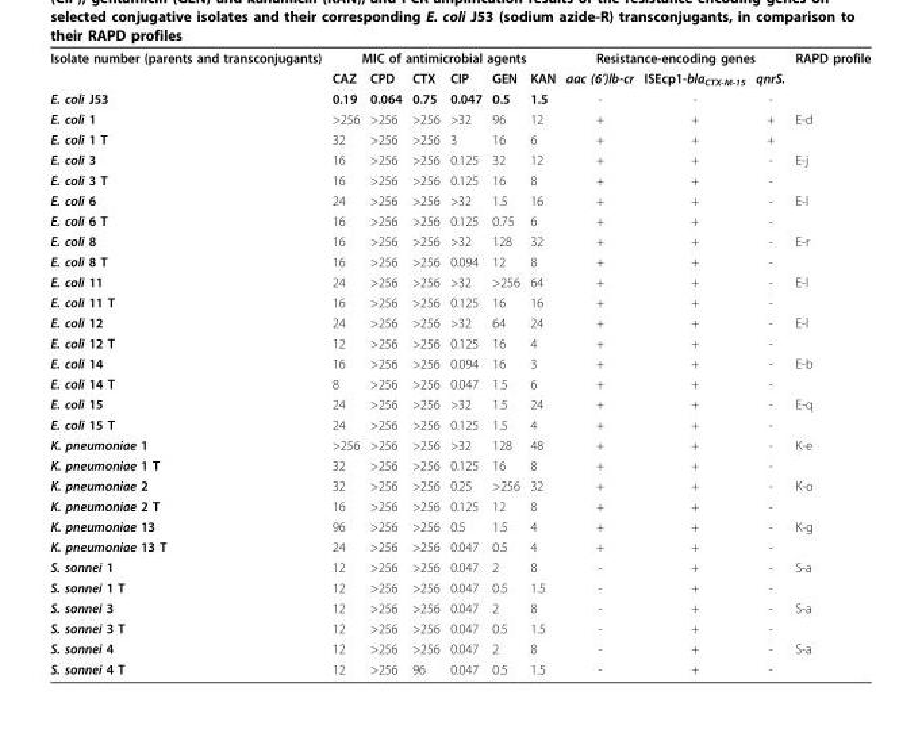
<table><tbody><tr><td rowspan="2">Isolate number (parents and transconjugants)</td><td colspan="6">MIC of antimicrobial agents</td><td colspan="3">Resistance-encoding genes</td><td>RAPD profile</td></tr><tr><td>CAZ</td><td>CPD</td><td>CTX</td><td>CIP</td><td>GEN</td><td>KAN</td><td>aac (6’)lb-cr</td><td>ISEcp1-bla<sub>CTX-M-15</sub></td><td>qnrS.</td><td></td></tr><tr><td>E. coli J53</td><td>0.19</td><td>0.064</td><td>0.75</td><td>0.047</td><td>0.5</td><td>1.5</td><td>-</td><td>-</td><td>-</td><td></td></tr><tr><td>E. coli 1</td><td>&gt;256</td><td>&gt;256</td><td>&gt;256</td><td>&gt;32</td><td>96</td><td>12</td><td>+</td><td>+</td><td>+</td><td>E-d</td></tr><tr><td>E. coli 1 T</td><td>32</td><td>&gt;256</td><td>&gt;256</td><td>3</td><td>16</td><td>6</td><td>+</td><td>+</td><td>+</td><td></td></tr><tr><td>E. coli 3</td><td>16</td><td>&gt;256</td><td>&gt;256</td><td>0.125</td><td>32</td><td>12</td><td>+</td><td>+</td><td>-</td><td>E-j</td></tr><tr><td>E. coli 3 T</td><td>16</td><td>&gt;256</td><td>&gt;256</td><td>0.125</td><td>16</td><td>8</td><td>+</td><td>+</td><td>-</td><td></td></tr><tr><td>E. coli 6</td><td>24</td><td>&gt;256</td><td>&gt;256</td><td>&gt;32</td><td>1.5</td><td>16</td><td>+</td><td>+</td><td>-</td><td>E-l</td></tr><tr><td>E. coli 6 T</td><td>16</td><td>&gt;256</td><td>&gt;256</td><td>0.125</td><td>0.75</td><td>6</td><td>+</td><td>+</td><td>-</td><td></td></tr><tr><td>E. coli 8</td><td>16</td><td>&gt;256</td><td>&gt;256</td><td>&gt;32</td><td>128</td><td>32</td><td>+</td><td>+</td><td>-</td><td>E-r</td></tr><tr><td>E. coli 8 T</td><td>16</td><td>&gt;256</td><td>&gt;256</td><td>0.094</td><td>12</td><td>8</td><td>+</td><td>+</td><td>-</td><td></td></tr><tr><td>E. coli 11</td><td>24</td><td>&gt;256</td><td>&gt;256</td><td>&gt;32</td><td>&gt;256</td><td>64</td><td>+</td><td>+</td><td>-</td><td>E-l</td></tr><tr><td>E. coli 11 T</td><td>16</td><td>&gt;256</td><td>&gt;256</td><td>0.125</td><td>16</td><td>16</td><td>+</td><td>+</td><td>-</td><td></td></tr><tr><td>E. coli 12</td><td>24</td><td>&gt;256</td><td>&gt;256</td><td>&gt;32</td><td>64</td><td>24</td><td>+</td><td>+</td><td>-</td><td>E-l</td></tr><tr><td>E. coli 12 T</td><td>12</td><td>&gt;256</td><td>&gt;256</td><td>0.125</td><td>16</td><td>4</td><td>+</td><td>+</td><td>-</td><td></td></tr><tr><td>E. coli 14</td><td>16</td><td>&gt;256</td><td>&gt;256</td><td>0.094</td><td>16</td><td>3</td><td>+</td><td>+</td><td>-</td><td>E-b</td></tr><tr><td>E. coli 14 T</td><td>8</td><td>&gt;256</td><td>&gt;256</td><td>0.047</td><td>1.5</td><td>6</td><td>+</td><td>+</td><td>-</td><td></td></tr><tr><td>E. coli 15</td><td>24</td><td>&gt;256</td><td>&gt;256</td><td>&gt;32</td><td>1.5</td><td>24</td><td>+</td><td>+</td><td>-</td><td>E-q</td></tr><tr><td>E. coli 15 T</td><td>24</td><td>&gt;256</td><td>&gt;256</td><td>0.125</td><td>1.5</td><td>4</td><td>+</td><td>+</td><td>-</td><td></td></tr><tr><td>K. pneumoniae 1</td><td>&gt;256</td><td>&gt;256</td><td>&gt;256</td><td>&gt;32</td><td>128</td><td>48</td><td>+</td><td>+</td><td>-</td><td>K-e</td></tr><tr><td>K. pneumoniae 1 T</td><td>32</td><td>&gt;256</td><td>&gt;256</td><td>0.125</td><td>16</td><td>8</td><td>+</td><td>+</td><td>-</td><td></td></tr><tr><td>K. pneumoniae 2</td><td>32</td><td>&gt;256</td><td>&gt;256</td><td>0.25</td><td>&gt;256</td><td>32</td><td>+</td><td>+</td><td>-</td><td>K-o</td></tr><tr><td>K. pneumoniae 2 T</td><td>16</td><td>&gt;256</td><td>&gt;256</td><td>0.125</td><td>12</td><td>8</td><td>+</td><td>+</td><td>-</td><td></td></tr><tr><td>K. pneumoniae 13</td><td>96</td><td>&gt;256</td><td>&gt;256</td><td>0.5</td><td>1.5</td><td>4</td><td>+</td><td>+</td><td>-</td><td>K-g</td></tr><tr><td>K. pneumoniae 13 T</td><td>24</td><td>&gt;256</td><td>&gt;256</td><td>0.047</td><td>0.5</td><td>4</td><td>+</td><td>+</td><td>-</td><td></td></tr><tr><td>S. sonnei 1</td><td>12</td><td>&gt;256</td><td>&gt;256</td><td>0.047</td><td>2</td><td>8</td><td>-</td><td>+</td><td>-</td><td>S-a</td></tr><tr><td>S. sonnei 1 T</td><td>12</td><td>&gt;256</td><td>&gt;256</td><td>0.047</td><td>0.5</td><td>1.5</td><td>-</td><td>+</td><td>-</td><td></td></tr><tr><td>S. sonnei 3</td><td>12</td><td>&gt;256</td><td>&gt;256</td><td>0.047</td><td>2</td><td>8</td><td>-</td><td>+</td><td>-</td><td>S-a</td></tr><tr><td>S. sonnei 3 T</td><td>12</td><td>&gt;256</td><td>&gt;256</td><td>0.047</td><td>0.5</td><td>1.5</td><td>-</td><td>+</td><td>-</td><td></td></tr><tr><td>S. sonnei 4</td><td>12</td><td>&gt;256</td><td>&gt;256</td><td>0.047</td><td>2</td><td>8</td><td>-</td><td>+</td><td>-</td><td>S-a</td></tr><tr><td>S. sonnei 4 T</td><td>12</td><td>&gt;256</td><td>96</td><td>0.047</td><td>0.5</td><td>1.5</td><td>-</td><td>+</td><td>-</td><td></td></tr></tbody></table>